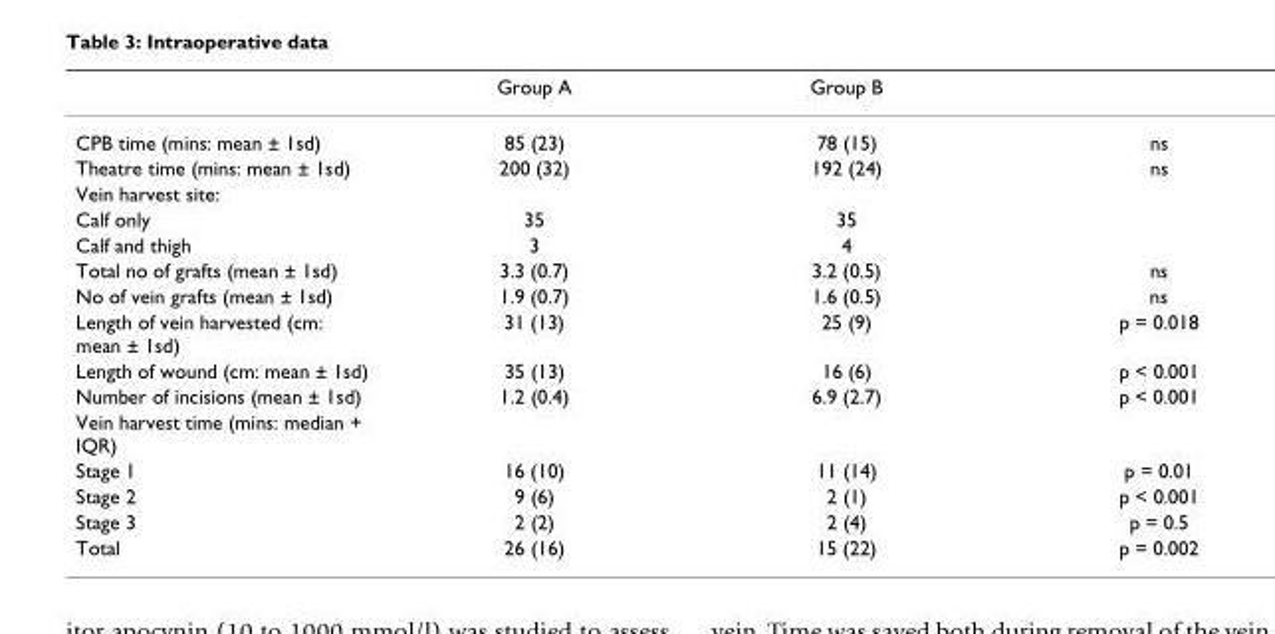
<table><thead><tr><td></td><td>Group A</td><td>Group B</td><td></td></tr></thead><tbody><tr><td>CPB time (mins: mean ± 1sd)</td><td>85 (23)</td><td>78 (15)</td><td>ns</td></tr><tr><td>Theatre time (mins: mean ± 1sd)</td><td>200 (32)</td><td>192 (24)</td><td>ns</td></tr><tr><td colspan="4">Vein harvest site:</td></tr><tr><td>Calf only</td><td>35</td><td>35</td><td></td></tr><tr><td>Calf and thigh</td><td>3</td><td>4</td><td></td></tr><tr><td>Total no of grafts (mean ± 1sd)</td><td>3.3 (0.7)</td><td>3.2 (0.5)</td><td>ns</td></tr><tr><td>No of vein grafts (mean ± 1sd)</td><td>1.9 (0.7)</td><td>1.6 (0.5)</td><td>ns</td></tr><tr><td>Length of vein harvested (cm: mean ± 1sd)</td><td>31 (13)</td><td>25 (9)</td><td>p = 0.018</td></tr><tr><td>Length of wound (cm: mean ± 1sd)</td><td>35 (13)</td><td>16 (6)</td><td>p &lt; 0.001</td></tr><tr><td>Number of incisions (mean ± 1sd)</td><td>1.2 (0.4)</td><td>6.9 (2.7)</td><td>p &lt; 0.001</td></tr><tr><td colspan="4">Vein harvest time (mins: median + IQR)</td></tr><tr><td>Stage 1</td><td>16 (10)</td><td>11 (14)</td><td>p = 0.01</td></tr><tr><td>Stage 2</td><td>9 (6)</td><td>2 (1)</td><td>p &lt; 0.001</td></tr><tr><td>Stage 3</td><td>2 (2)</td><td>2 (4)</td><td>p = 0.5</td></tr><tr><td>Total</td><td>26 (16)</td><td>15 (22)</td><td>p = 0.002</td></tr></tbody></table>